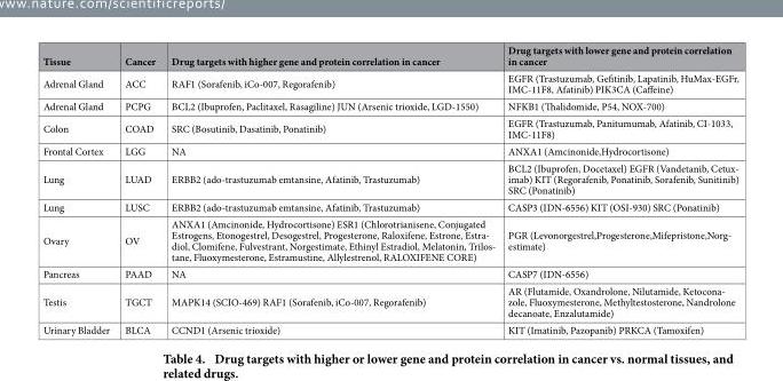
<table><thead><tr><td>Tissue</td><td>Cancer</td><td>Drug targets with higher gene and protein correlation in cancer</td><td>Drug targets with lower gene and protein correlation in cancer</td></tr></thead><tbody><tr><td>Adrenal Gland</td><td>ACC</td><td>RAF1 (Sorafenib, iCo-007, Regorafenib)</td><td>EGFR (Trastuzumab, Gefitinib, Lapatinib, HuMax-EGFr, IMC-11F8, Afatinib) PIK3CA (Caffeine)</td></tr><tr><td>Adrenal Gland</td><td>PCPG</td><td>BCL2 (Ibuprofen, Paclitaxel, Rasagiline) JUN (Arsenic trioxide, LGD-1550)</td><td>NFKB1 (Thalidomide, P54, NOX-700)</td></tr><tr><td>Colon</td><td>COAD</td><td>SRC (Bosutinib, Dasatinib, Ponatinib)</td><td>EGFR (Trastuzumab, Panitumumab, Afatinib, CI-1033, IMC-11F8)</td></tr><tr><td>Frontal Cortex</td><td>LGG</td><td>NA</td><td>ANXA1 (Amcinonide,Hydrocortisone)</td></tr><tr><td>Lung</td><td>LUAD</td><td>ERBB2 (ado-trastuzumab emtansine, Afatinib, Trastuzumab)</td><td>BCL2 (Ibuprofen, Docetaxel) EGFR (Vandetanib, Cetux- imab) KIT (Regorafenib, Ponatinib, Sorafenib, Sunitinib) SRC (Ponatinib)</td></tr><tr><td>Lung</td><td>LUSC</td><td>ERBB2 (ado-trastuzumab emtansine, Afatinib, Trastuzumab)</td><td>CASP3 (IDN-6556) KIT (OSI-930) SRC (Ponatinib)</td></tr><tr><td>Ovary</td><td>OV</td><td>ANXA1 (Amcinonide, Hydrocortisone) ESR1 (Chlorotrianisene, Conjugated Estrogens, Etonogestrel, Desogestrel, Progesterone, Raloxifene, Estrone, Estra- diol, Clomifene, Fulvestrant, Norgestimate, Ethinyl Estradiol, Melatonin, Trilos- tane, Fluoxymesterone, Estramustine, Allylestrenol, RALOXIFENE CORE)</td><td>PGR (Levonorgestrel,Progesterone,Mifepristone,Norg- estimate)</td></tr><tr><td>Pancreas</td><td>PAAD</td><td>NA</td><td>CASP7 (IDN-6556)</td></tr><tr><td>Testis</td><td>TGCT</td><td>MAPK14 (SCIO-469) RAF1 (Sorafenib, iCo-007, Regorafenib)</td><td>AR (Flutamide, Oxandrolone, Nilutamide, Ketocona- zole, Fluoxymesterone, Methyltestosterone, Nandrolone decanoate, Enzalutamide)</td></tr><tr><td>Urinary Bladder</td><td>BLCA</td><td>CCND1 (Arsenic trioxide)</td><td>KIT (Imatinib, Pazopanib) PRKCA (Tamoxifen)</td></tr></tbody></table>